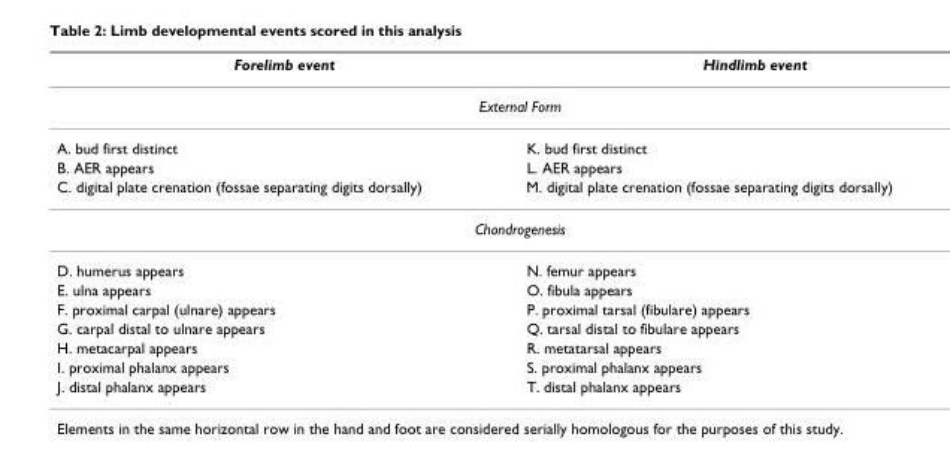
<table><thead><tr><td>Forelimb event</td><td>Hindlimb event</td></tr></thead><tbody><tr><td colspan="2">External Form</td></tr><tr><td>A. bud first distinct</td><td>K. bud first distinct</td></tr><tr><td>B. AER appears</td><td>L. AER appears</td></tr><tr><td>C. digital plate crenation (fossae separating digits dorsally)</td><td>M. digital plate crenation (fossae separating digits dorsally)</td></tr><tr><td colspan="2">Chondrogenesis</td></tr><tr><td>D. humerus appears</td><td>N. femur appears</td></tr><tr><td>E. ulna appears</td><td>O. fibula appears</td></tr><tr><td>F. proximal carpal (ulnare) appears</td><td>P. proximal tarsal (fibulare) appears</td></tr><tr><td>G. carpal distal to ulnare appears</td><td>Q. tarsal distal to fibulare appears</td></tr><tr><td>H. metacarpal appears</td><td>R. metatarsal appears</td></tr><tr><td>I. proximal phalanx appears</td><td>S. proximal phalanx appears</td></tr><tr><td>J. distal phalanx appears</td><td>T. distal phalanx appears</td></tr></tbody></table>